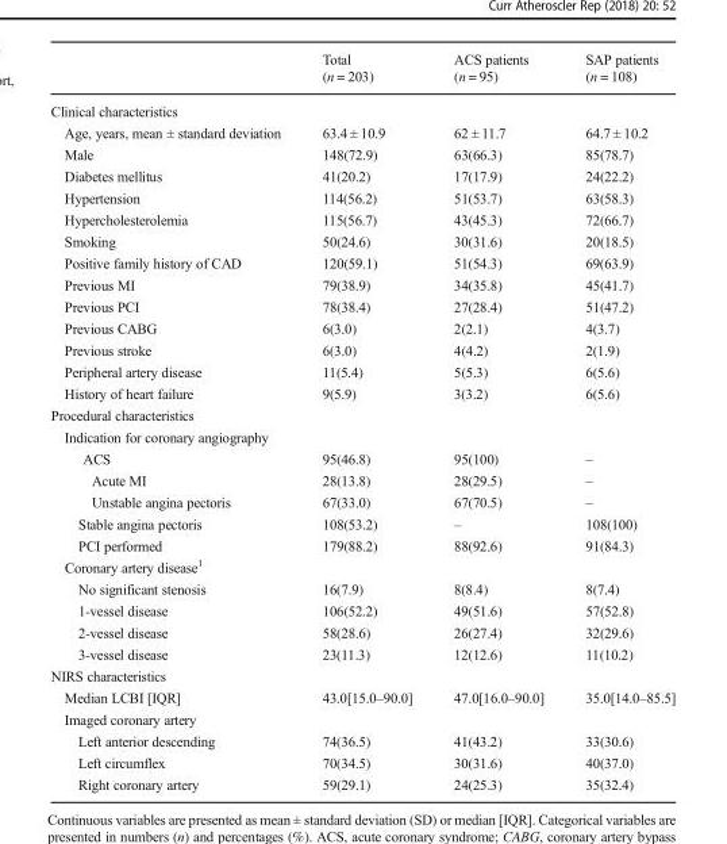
<table><thead><tr><td rowspan="2"></td><td rowspan="2">Total (n = 203)</td><td rowspan="2">ACS patients (n = 95)</td><td rowspan="2">SAP patients (n = 108)</td></tr><tr></tr></thead><tbody><tr><td colspan="4">Clinical characteristics</td></tr><tr><td>Age, years, mean ± standard deviation</td><td>63.4 ± 10.9</td><td>62 ± 11.7</td><td>64.7 ± 10.2</td></tr><tr><td>Male</td><td>148(72.9)</td><td>63(66.3)</td><td>85(78.7)</td></tr><tr><td>Diabetes mellitus</td><td>41(20.2)</td><td>17(17.9)</td><td>24(22.2)</td></tr><tr><td>Hypertension</td><td>114(56.2)</td><td>51(53.7)</td><td>63(58.3)</td></tr><tr><td>Hypercholesterolemia</td><td>115(56.7)</td><td>43(45.3)</td><td>72(66.7)</td></tr><tr><td>Smoking</td><td>50(24.6)</td><td>30(31.6)</td><td>20(18.5)</td></tr><tr><td>Positive family history of CAD</td><td>120(59.1)</td><td>51(54.3)</td><td>69(63.9)</td></tr><tr><td>Previous MI</td><td>79(38.9)</td><td>34(35.8)</td><td>45(41.7)</td></tr><tr><td>Previous PCI</td><td>78(38.4)</td><td>27(28.4)</td><td>51(47.2)</td></tr><tr><td>Previous CABG</td><td>6(3.0)</td><td>2(2.1)</td><td>4(3.7)</td></tr><tr><td>Previous stroke</td><td>6(3.0)</td><td>4(4.2)</td><td>2(1.9)</td></tr><tr><td>Peripheral artery disease</td><td>11(5.4)</td><td>5(5.3)</td><td>6(5.6)</td></tr><tr><td>History of heart failure</td><td>9(5.9)</td><td>3(3.2)</td><td>6(5.6)</td></tr><tr><td colspan="4">Procedural characteristics</td></tr><tr><td colspan="4">Indication for coronary angiography</td></tr><tr><td>ACS</td><td>95(46.8)</td><td>95(100)</td><td>–</td></tr><tr><td>Acute MI</td><td>28(13.8)</td><td>28(29.5)</td><td>–</td></tr><tr><td>Unstable angina pectoris</td><td>67(33.0)</td><td>67(70.5)</td><td>–</td></tr><tr><td>Stable angina pectoris</td><td>108(53.2)</td><td>–</td><td>108(100)</td></tr><tr><td>PCI performed</td><td>179(88.2)</td><td>88(92.6)</td><td>91(84.3)</td></tr><tr><td colspan="4">Coronary artery disease<sup>1</sup></td></tr><tr><td>No significant stenosis</td><td>16(7.9)</td><td>8(8.4)</td><td>8(7.4)</td></tr><tr><td>1-vessel disease</td><td>106(52.2)</td><td>49(51.6)</td><td>57(52.8)</td></tr><tr><td>2-vessel disease</td><td>58(28.6)</td><td>26(27.4)</td><td>32(29.6)</td></tr><tr><td>3-vessel disease</td><td>23(11.3)</td><td>12(12.6)</td><td>11(10.2)</td></tr><tr><td colspan="4">NIRS characteristics</td></tr><tr><td>Median LCBI [IQR]</td><td>43.0[15.0–90.0]</td><td>47.0[16.0–90.0]</td><td>35.0[14.0–85.5]</td></tr><tr><td colspan="4">Imaged coronary artery</td></tr><tr><td>Left anterior descending</td><td>74(36.5)</td><td>41(43.2)</td><td>33(30.6)</td></tr><tr><td>Left circumflex</td><td>70(34.5)</td><td>30(31.6)</td><td>40(37.0)</td></tr><tr><td>Right coronary artery</td><td>59(29.1)</td><td>24(25.3)</td><td>35(32.4)</td></tr></tbody></table>